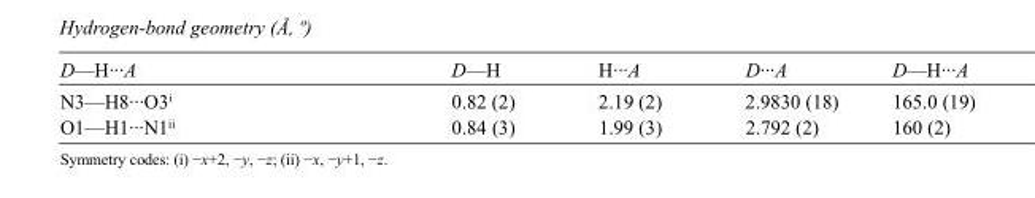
<table><tbody><tr><td>D—H···A</td><td>D—H</td><td>H···A</td><td>D···A</td><td>D—H···A</td></tr><tr><td>N3—H8···O3<sup>i</sup></td><td>0.82 (2)</td><td>2.19 (2)</td><td>2.9830 (18)</td><td>165.0 (19)</td></tr><tr><td>O1—H1···N1<sup>ii</sup></td><td>0.84 (3)</td><td>1.99 (3)</td><td>2.792 (2)</td><td>160 (2)</td></tr></tbody></table>